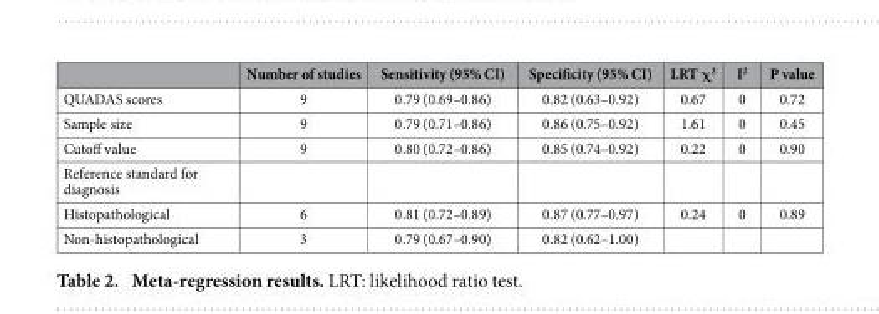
<table><thead><tr><td></td><td>Number of studies</td><td>Sensitivity (95% CI)</td><td>Specificity (95% CI)</td><td>LRT χ<sup>2</sup></td><td>I<sup>2</sup></td><td>P value</td></tr></thead><tbody><tr><td>QUADAS scores</td><td>9</td><td>0.79 (0.69–0.86)</td><td>0.82 (0.63–0.92)</td><td>0.67</td><td>0</td><td>0.72</td></tr><tr><td>Sample size</td><td>9</td><td>0.79 (0.71–0.86)</td><td>0.86 (0.75–0.92)</td><td>1.61</td><td>0</td><td>0.45</td></tr><tr><td>Cutoff value</td><td>9</td><td>0.80 (0.72–0.86)</td><td>0.85 (0.74–0.92)</td><td>0.22</td><td>0</td><td>0.90</td></tr><tr><td colspan="7">Reference standard for diagnosis</td></tr><tr><td>Histopathological</td><td>6</td><td>0.81 (0.72–0.89)</td><td>0.87 (0.77–0.97)</td><td>0.24</td><td>0</td><td>0.89</td></tr><tr><td>Non-histopathological</td><td>3</td><td>0.79 (0.67–0.90)</td><td>0.82 (0.62–1.00)</td><td></td><td></td><td></td></tr></tbody></table>